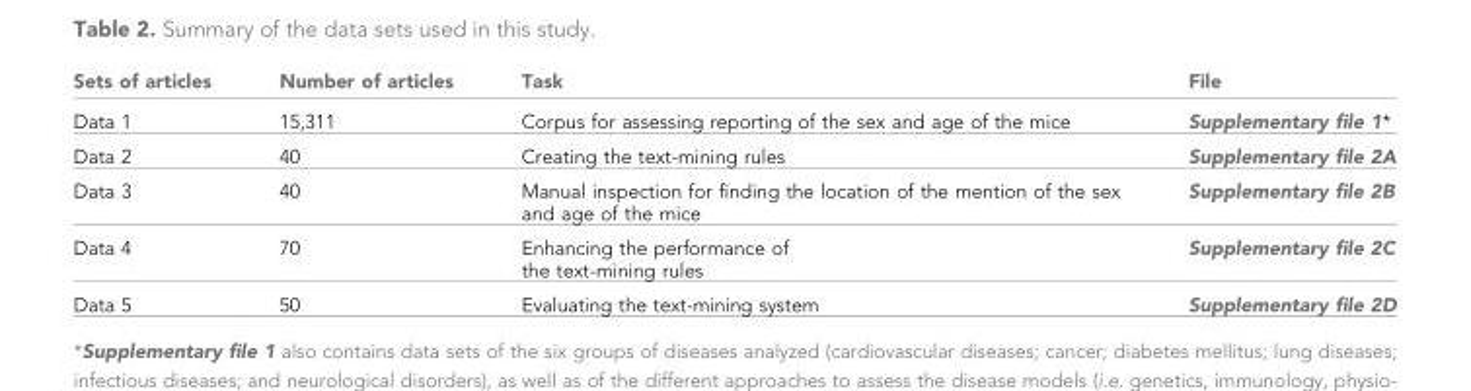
<table><thead><tr><td>Sets of articles</td><td>Number of articles</td><td>Task</td><td>File</td></tr></thead><tbody><tr><td>Data 1</td><td>15,311</td><td>Corpus for assessing reporting of the sex and age of the mice</td><td>Supplementary file 1*</td></tr><tr><td>Data 2</td><td>40</td><td>Creating the text-mining rules</td><td>Supplementary file 2A</td></tr><tr><td>Data 3</td><td>40</td><td>Manual inspection for finding the location of the mention of the sex and age of the mice</td><td>Supplementary file 2B</td></tr><tr><td>Data 4</td><td>70</td><td>Enhancing the performance of the text-mining rules</td><td>Supplementary file 2C</td></tr><tr><td>Data 5</td><td>50</td><td>Evaluating the text-mining system</td><td>Supplementary file 2D</td></tr></tbody></table>